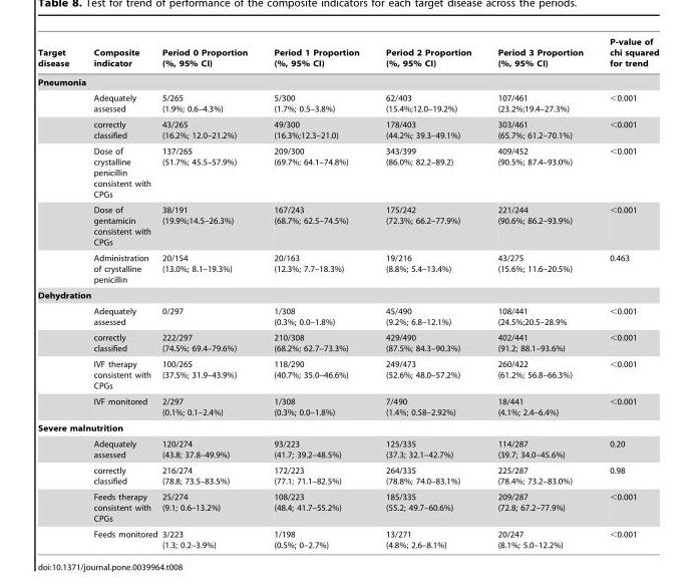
<table><thead><tr><td>Target disease</td><td>Composite indicator</td><td>Period 0 Proportion (%, 95% CI)</td><td>Period 1 Proportion (%, 95% CI)</td><td>Period 2 Proportion (%, 95% CI)</td><td>Period 3 Proportion (%, 95% CI)</td><td>P-value of chi squared for trend</td></tr></thead><tbody><tr><td colspan="7">Pneumonia</td></tr><tr><td></td><td>Adequately assessed</td><td>5/265 (1.9%; 0.6–4.3%)</td><td>5/300 (1.7%; 0.5–3.8%)</td><td>62/403 (15.4%;12.0–19.2%)</td><td>107/461 (23.2%;19.4–27.3%)</td><td>&lt;0.001</td></tr><tr><td></td><td>correctly classified</td><td>43/265 (16.2%; 12.0–21.2%)</td><td>49/300 (16.3%;12.3–21.0)</td><td>178/403 (44.2%; 39.3–49.1%)</td><td>303/461 (65.7%; 61.2–70.1%)</td><td>&lt;0.001</td></tr><tr><td></td><td>Dose of crystalline penicillin consistent with CPGs</td><td>137/265 (51.7%; 45.5–57.9%)</td><td>209/300 (69.7%; 64.1–74.8%)</td><td>343/399 (86.0%; 82.2–89.2)</td><td>409/452 (90.5%; 87.4–93.0%)</td><td>&lt;0.001</td></tr><tr><td></td><td>Dose of gentamicin consistent with CPGs</td><td>38/191 (19.9%;14.5–26.3%)</td><td>167/243 (68.7%; 62.5–74.5%)</td><td>175/242 (72.3%; 66.2–77.9%)</td><td>221/244 (90.6%; 86.2–93.9%)</td><td>&lt;0.001</td></tr><tr><td></td><td>Administration of crystalline penicillin</td><td>20/154 (13.0%; 8.1–19.3%)</td><td>20/163 (12.3%; 7.7–18.3%)</td><td>19/216 (8.8%; 5.4–13.4%)</td><td>43/275 (15.6%; 11.6–20.5%)</td><td>0.463</td></tr><tr><td colspan="7">Dehydration</td></tr><tr><td></td><td>Adequately assessed</td><td>0/297</td><td>1/308 (0.3%; 0.0–1.8%)</td><td>45/490 (9.2%; 6.8–12.1%)</td><td>108/441 (24.5%;20.5–28.9%</td><td>&lt;0.001</td></tr><tr><td></td><td>correctly classified</td><td>222/297 (74.5%; 69.4–79.6%)</td><td>210/308 (68.2%; 62.7–73.3%)</td><td>429/490 (87.5%; 84.3–90.3%)</td><td>402/441 (91.2; 88.1–93.6%)</td><td>&lt;0.001</td></tr><tr><td></td><td>IVF therapy consistent with CPGs</td><td>100/265 (37.5%; 31.9–43.9%)</td><td>118/290 (40.7%; 35.0–46.6%)</td><td>249/473 (52.6%; 48.0–57.2%)</td><td>260/422 (61.2%; 56.8–66.3%)</td><td>&lt;0.001</td></tr><tr><td></td><td>IVF monitored</td><td>2/297 (0.1%; 0.1–2.4%)</td><td>1/308 (0.3%; 0.0–1.8%)</td><td>7/490 (1.4%; 0.58–2.92%)</td><td>18/441 (4.1%; 2.4–6.4%)</td><td>&lt;0.001</td></tr><tr><td colspan="7">Severe malnutrition</td></tr><tr><td></td><td>Adequately assessed</td><td>120/274 (43.8; 37.8–49.9%)</td><td>93/223 (41.7; 39.2–48.5%)</td><td>125/335 (37.3; 32.1–42.7%)</td><td>114/287 (39.7; 34.0–45.6%)</td><td>0.20</td></tr><tr><td></td><td>correctly classified</td><td>216/274 (78.8; 73.5–83.5%)</td><td>172/223 (77.1; 71.1–82.5%)</td><td>264/335 (78.8%; 74.0–83.1%)</td><td>225/287 (78.4%; 73.2–83.0%)</td><td>0.98</td></tr><tr><td></td><td>Feeds therapy consistent with CPGs</td><td>25/274 (9.1; 0.6–13.2%)</td><td>108/223 (48.4; 41.7–55.2%)</td><td>185/335 (55.2; 49.7–60.6%)</td><td>209/287 (72.8; 67.2–77.9%)</td><td>&lt;0.001</td></tr><tr><td></td><td>Feeds monitored</td><td>3/223 (1.3; 0.2–3.9%)</td><td>1/198 (0.5%; 0–2.7%)</td><td>13/271 (4.8%; 2.6–8.1%)</td><td>20/247 (8.1%; 5.0–12.2%)</td><td>&lt;0.001</td></tr></tbody></table>